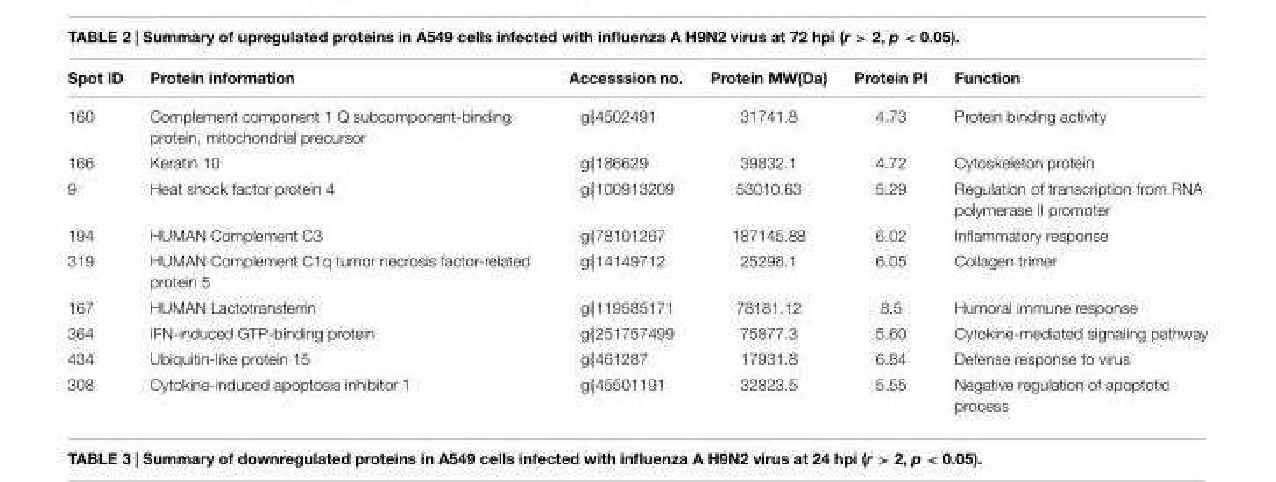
<table><thead><tr><td>Spot ID</td><td>Protein information</td><td>Accesssion no.</td><td>Protein MW(Da)</td><td>Protein PI</td><td>Function</td></tr></thead><tbody><tr><td>160</td><td>Complement component 1 Q subcomponent-binding protein, mitochondrial precursor</td><td>gi|4502491</td><td>31741.8</td><td>4.73</td><td>Protein binding activity</td></tr><tr><td>166</td><td>Keratin 10</td><td>gi|186629</td><td>39832.1</td><td>4.72</td><td>Cytoskeleton protein</td></tr><tr><td>9</td><td>Heat shock factor protein 4</td><td>gi|100913209</td><td>53010.63</td><td>5.29</td><td>Regulation of transcription from RNA polymerase II promoter</td></tr><tr><td>194</td><td>HUMAN Complement C3</td><td>gi|78101267</td><td>187145.88</td><td>6.02</td><td>Inflammatory response</td></tr><tr><td>319</td><td>HUMAN Complement C1q tumor necrosis factor-related protein 5</td><td>gi|14149712</td><td>25298.1</td><td>6.05</td><td>Collagen trimer</td></tr><tr><td>167</td><td>HUMAN Lactotransferrin</td><td>gi|119585171</td><td>78181.12</td><td>8.5</td><td>Humoral immune response</td></tr><tr><td>364</td><td>IFN-induced GTP-binding protein</td><td>gi|251757499</td><td>75877.3</td><td>5.60</td><td>Cytokine-mediated signaling pathway</td></tr><tr><td>434</td><td>Ubiquitin-like protein 15</td><td>gi|461287</td><td>17931.8</td><td>6.84</td><td>Defense response to virus</td></tr><tr><td>308</td><td>Cytokine-induced apoptosis inhibitor 1</td><td>gi|45501191</td><td>32823.5</td><td>5.55</td><td>Negative regulation of apoptotic process</td></tr></tbody></table>